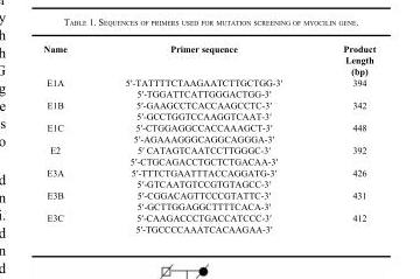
<table><thead><tr><td>Name</td><td>Primer sequence</td><td>Product Length (bp)</td></tr></thead><tbody><tr><td rowspan="2">E1A</td><td>5′-TATTTTCTAAGAATCTTGCTGG-3′</td><td>394</td></tr><tr><td>5′-TGGATTCATTGGGACTGG-3′</td><td></td></tr><tr><td rowspan="2">E1B</td><td>5′-GAAGCCTCACCAAGCCTC-3′</td><td>342</td></tr><tr><td>5′-GCCTGGTCCAAGGTCAAT-3′</td><td></td></tr><tr><td rowspan="2">E1C</td><td>5′-CTGGAGGCCACCAAAGCT-3′</td><td>448</td></tr><tr><td>5′-AGAAAGGGCAGGCAGGGA-3′</td><td></td></tr><tr><td rowspan="2">E2</td><td>5′ CATAGTCAATCCTTGGGC-3′</td><td>392</td></tr><tr><td>5′-CTGCAGACCTGCTCTGACAA-3′</td><td></td></tr><tr><td rowspan="2">E3A</td><td>5′-TTTCTGAATTTACCAGGATG-3′</td><td>426</td></tr><tr><td>5′-GTCAATGTCCGTGTAGCC-3′</td><td></td></tr><tr><td rowspan="2">E3B</td><td>5′-CGGACAGTTCCCGTATTC-3′</td><td>431</td></tr><tr><td>5′-GCTTGGAGGCTTTTCACA-3′</td><td></td></tr><tr><td rowspan="2">E3C</td><td>5′-CAAGACCCTGACCATCCC-3′</td><td>412</td></tr><tr><td>5′-TGCCCCAAATCACAAGAA-3′</td><td></td></tr></tbody></table>